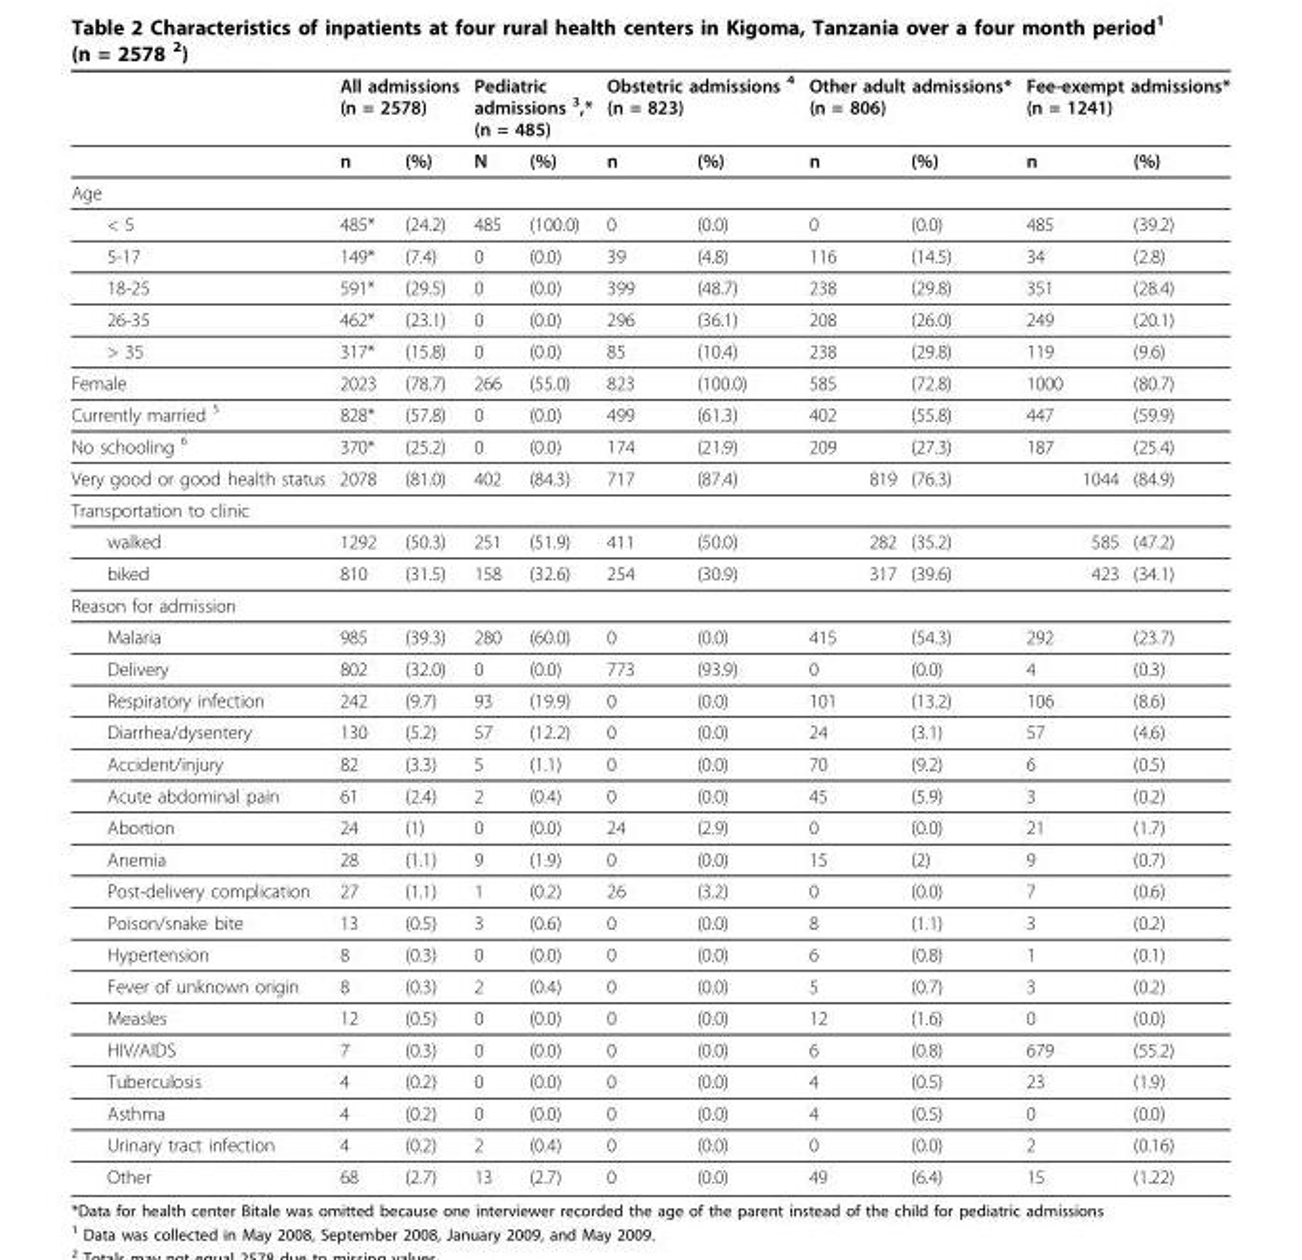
<table><thead><tr><td rowspan="2"></td><td colspan="2">All admissions (n = 2578)</td><td colspan="2">Pediatric admissions <sup>3</sup>,* (n = 485)</td><td colspan="2">Obstetric admissions <sup>4</sup> (n = 823)</td><td colspan="2">Other adult admissions* (n = 806)</td><td colspan="2">Fee-exempt admissions* (n = 1241)</td></tr><tr><td>n</td><td>(%)</td><td>N</td><td>(%)</td><td>n</td><td>(%)</td><td>n</td><td>(%)</td><td>n</td><td>(%)</td></tr></thead><tbody><tr><td colspan="11">Age</td></tr><tr><td>&lt; 5</td><td>485*</td><td>(24.2)</td><td>485</td><td>(100.0)</td><td>0</td><td>(0.0)</td><td>0</td><td>(0.0)</td><td>485</td><td>(39.2)</td></tr><tr><td>5-17</td><td>149*</td><td>(7.4)</td><td>0</td><td>(0.0)</td><td>39</td><td>(4.8)</td><td>116</td><td>(14.5)</td><td>34</td><td>(2.8)</td></tr><tr><td>18-25</td><td>591*</td><td>(29.5)</td><td>0</td><td>(0.0)</td><td>399</td><td>(48.7)</td><td>238</td><td>(29.8)</td><td>351</td><td>(28.4)</td></tr><tr><td>26-35</td><td>462*</td><td>(23.1)</td><td>0</td><td>(0.0)</td><td>296</td><td>(36.1)</td><td>208</td><td>(26.0)</td><td>249</td><td>(20.1)</td></tr><tr><td>&gt; 35</td><td>317*</td><td>(15.8)</td><td>0</td><td>(0.0)</td><td>85</td><td>(10.4)</td><td>238</td><td>(29.8)</td><td>119</td><td>(9.6)</td></tr><tr><td>Female</td><td>2023</td><td>(78.7)</td><td>266</td><td>(55.0)</td><td>823</td><td>(100.0)</td><td>585</td><td>(72.8)</td><td>1000</td><td>(80.7)</td></tr><tr><td>Currently married <sup>5</sup></td><td>828*</td><td>(57.8)</td><td>0</td><td>(0.0)</td><td>499</td><td>(61.3)</td><td>402</td><td>(55.8)</td><td>447</td><td>(59.9)</td></tr><tr><td>No schooling <sup>6</sup></td><td>370*</td><td>(25.2)</td><td>0</td><td>(0.0)</td><td>174</td><td>(21.9)</td><td>209</td><td>(27.3)</td><td>187</td><td>(25.4)</td></tr><tr><td>Very good or good health status</td><td>2078</td><td>(81.0)</td><td>402</td><td>(84.3)</td><td>717</td><td>(87.4)</td><td>819</td><td>(76.3)</td><td>1044</td><td>(84.9)</td></tr><tr><td colspan="11">Transportation to clinic</td></tr><tr><td>walked</td><td>1292</td><td>(50.3)</td><td>251</td><td>(51.9)</td><td>411</td><td>(50.0)</td><td>282</td><td>(35.2)</td><td>585</td><td>(47.2)</td></tr><tr><td>biked</td><td>810</td><td>(31.5)</td><td>158</td><td>(32.6)</td><td>254</td><td>(30.9)</td><td>317</td><td>(39.6)</td><td>423</td><td>(34.1)</td></tr><tr><td colspan="11">Reason for admission</td></tr><tr><td>Malaria</td><td>985</td><td>(39.3)</td><td>280</td><td>(60.0)</td><td>0</td><td>(0.0)</td><td>415</td><td>(54.3)</td><td>292</td><td>(23.7)</td></tr><tr><td>Delivery</td><td>802</td><td>(32.0)</td><td>0</td><td>(0.0)</td><td>773</td><td>(93.9)</td><td>0</td><td>(0.0)</td><td>4</td><td>(0.3)</td></tr><tr><td>Respiratory infection</td><td>242</td><td>(9.7)</td><td>93</td><td>(19.9)</td><td>0</td><td>(0.0)</td><td>101</td><td>(13.2)</td><td>106</td><td>(8.6)</td></tr><tr><td>Diarrhea/dysentery</td><td>130</td><td>(5.2)</td><td>57</td><td>(12.2)</td><td>0</td><td>(0.0)</td><td>24</td><td>(3.1)</td><td>57</td><td>(4.6)</td></tr><tr><td>Accident/injury</td><td>82</td><td>(3.3)</td><td>5</td><td>(1.1)</td><td>0</td><td>(0.0)</td><td>70</td><td>(9.2)</td><td>6</td><td>(0.5)</td></tr><tr><td>Acute abdominal pain</td><td>61</td><td>(2.4)</td><td>2</td><td>(0.4)</td><td>0</td><td>(0.0)</td><td>45</td><td>(5.9)</td><td>3</td><td>(0.2)</td></tr><tr><td>Abortion</td><td>24</td><td>(1)</td><td>0</td><td>(0.0)</td><td>24</td><td>(2.9)</td><td>0</td><td>(0.0)</td><td>21</td><td>(1.7)</td></tr><tr><td>Anemia</td><td>28</td><td>(1.1)</td><td>9</td><td>(1.9)</td><td>0</td><td>(0.0)</td><td>15</td><td>(2)</td><td>9</td><td>(0.7)</td></tr><tr><td>Post-delivery complication</td><td>27</td><td>(1.1)</td><td>1</td><td>(0.2)</td><td>26</td><td>(3.2)</td><td>0</td><td>(0.0)</td><td>7</td><td>(0.6)</td></tr><tr><td>Poison/snake bite</td><td>13</td><td>(0.5)</td><td>3</td><td>(0.6)</td><td>0</td><td>(0.0)</td><td>8</td><td>(1.1)</td><td>3</td><td>(0.2)</td></tr><tr><td>Hypertension</td><td>8</td><td>(0.3)</td><td>0</td><td>(0.0)</td><td>0</td><td>(0.0)</td><td>6</td><td>(0.8)</td><td>1</td><td>(0.1)</td></tr><tr><td>Fever of unknown origin</td><td>8</td><td>(0.3)</td><td>2</td><td>(0.4)</td><td>0</td><td>(0.0)</td><td>5</td><td>(0.7)</td><td>3</td><td>(0.2)</td></tr><tr><td>Measles</td><td>12</td><td>(0.5)</td><td>0</td><td>(0.0)</td><td>0</td><td>(0.0)</td><td>12</td><td>(1.6)</td><td>0</td><td>(0.0)</td></tr><tr><td>HIV/AIDS</td><td>7</td><td>(0.3)</td><td>0</td><td>(0.0)</td><td>0</td><td>(0.0)</td><td>6</td><td>(0.8)</td><td>679</td><td>(55.2)</td></tr><tr><td>Tuberculosis</td><td>4</td><td>(0.2)</td><td>0</td><td>(0.0)</td><td>0</td><td>(0.0)</td><td>4</td><td>(0.5)</td><td>23</td><td>(1.9)</td></tr><tr><td>Asthma</td><td>4</td><td>(0.2)</td><td>0</td><td>(0.0)</td><td>0</td><td>(0.0)</td><td>4</td><td>(0.5)</td><td>0</td><td>(0.0)</td></tr><tr><td>Urinary tract infection</td><td>4</td><td>(0.2)</td><td>2</td><td>(0.4)</td><td>0</td><td>(0.0)</td><td>0</td><td>(0.0)</td><td>2</td><td>(0.16)</td></tr><tr><td>Other</td><td>68</td><td>(2.7)</td><td>13</td><td>(2.7)</td><td>0</td><td>(0.0)</td><td>49</td><td>(6.4)</td><td>15</td><td>(1.22)</td></tr></tbody></table>